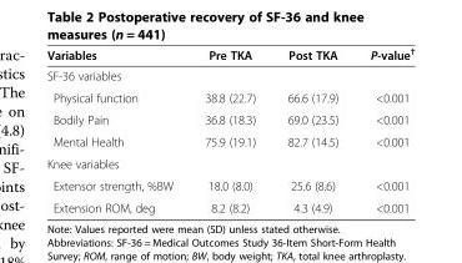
<table><thead><tr><td>Variables</td><td>Pre TKA</td><td>Post TKA</td><td>P-value<sup>†</sup></td></tr></thead><tbody><tr><td colspan="4">SF-36 variables</td></tr><tr><td>Physical function</td><td>38.8 (22.7)</td><td>66.6 (17.9)</td><td>&lt;0.001</td></tr><tr><td>Bodily Pain</td><td>36.8 (18.3)</td><td>69.0 (23.5)</td><td>&lt;0.001</td></tr><tr><td>Mental Health</td><td>75.9 (19.1)</td><td>82.7 (14.5)</td><td>&lt;0.001</td></tr><tr><td colspan="4">Knee variables</td></tr><tr><td>Extensor strength, %BW</td><td>18.0 (8.0)</td><td>25.6 (8.6)</td><td>&lt;0.001</td></tr><tr><td>Extension ROM, deg</td><td>8.2 (8.2)</td><td>4.3 (4.9)</td><td>&lt;0.001</td></tr></tbody></table>